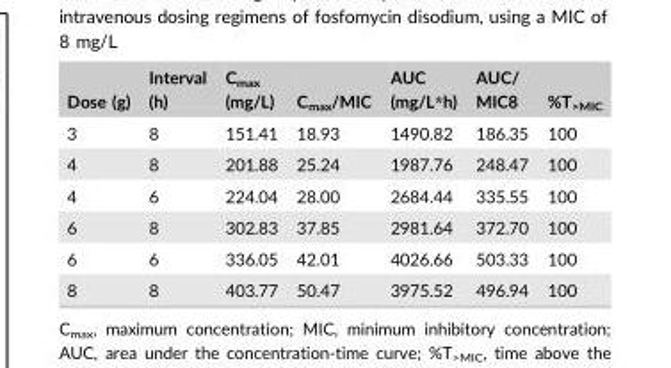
<table><thead><tr><td>Dose (g)</td><td>Interval (h)</td><td>C<sub>max</sub> (mg/L)</td><td>C<sub>max</sub>/MIC</td><td>AUC (mg/L*h)</td><td>AUC/ MIC8</td><td>%T<sub>&gt;MIC</sub></td></tr></thead><tbody><tr><td>3</td><td>8</td><td>151.41</td><td>18.93</td><td>1490.82</td><td>186.35</td><td>100</td></tr><tr><td>4</td><td>8</td><td>201.88</td><td>25.24</td><td>1987.76</td><td>248.47</td><td>100</td></tr><tr><td>4</td><td>6</td><td>224.04</td><td>28.00</td><td>2684.44</td><td>335.55</td><td>100</td></tr><tr><td>6</td><td>8</td><td>302.83</td><td>37.85</td><td>2981.64</td><td>372.70</td><td>100</td></tr><tr><td>6</td><td>6</td><td>336.05</td><td>42.01</td><td>4026.66</td><td>503.33</td><td>100</td></tr><tr><td>8</td><td>8</td><td>403.77</td><td>50.47</td><td>3975.52</td><td>496.94</td><td>100</td></tr></tbody></table>